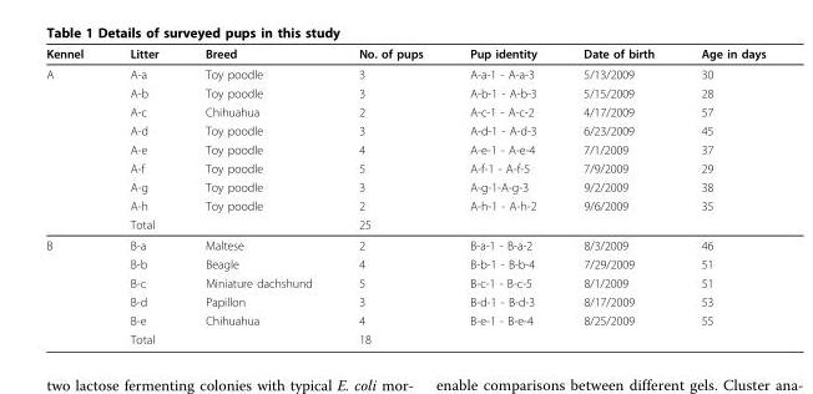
<table><thead><tr><td>Kennel</td><td>Litter</td><td>Breed</td><td>No. of pups</td><td>Pup identity</td><td>Date of birth</td><td>Age in days</td></tr></thead><tbody><tr><td rowspan="9">A</td><td>A-a</td><td>Toy poodle</td><td>3</td><td>A-a-1 - A-a-3</td><td>5/13/2009</td><td>30</td></tr><tr><td>A-b</td><td>Toy poodle</td><td>3</td><td>A-b-1 - A-b-3</td><td>5/15/2009</td><td>28</td></tr><tr><td>A-c</td><td>Chihuahua</td><td>2</td><td>A-c-1 - A-c-2</td><td>4/17/2009</td><td>57</td></tr><tr><td>A-d</td><td>Toy poodle</td><td>3</td><td>A-d-1 - A-d-3</td><td>6/23/2009</td><td>45</td></tr><tr><td>A-e</td><td>Toy poodle</td><td>4</td><td>A-e-1 - A-e-4</td><td>7/1/2009</td><td>37</td></tr><tr><td>A-f</td><td>Toy poodle</td><td>5</td><td>A-f-1 - A-f-5</td><td>7/9/2009</td><td>29</td></tr><tr><td>A-g</td><td>Toy poodle</td><td>3</td><td>A-g-1-A-g-3</td><td>9/2/2009</td><td>38</td></tr><tr><td>A-h</td><td>Toy poodle</td><td>2</td><td>A-h-1 - A-h-2</td><td>9/6/2009</td><td>35</td></tr><tr><td>Total</td><td></td><td>25</td><td></td><td></td><td></td></tr><tr><td rowspan="6">B</td><td>B-a</td><td>Maltese</td><td>2</td><td>B-a-1 - B-a-2</td><td>8/3/2009</td><td>46</td></tr><tr><td>B-b</td><td>Beagle</td><td>4</td><td>B-b-1 - B-b-4</td><td>7/29/2009</td><td>51</td></tr><tr><td>B-c</td><td>Miniature dachshund</td><td>5</td><td>B-c-1 - B-c-5</td><td>8/1/2009</td><td>51</td></tr><tr><td>B-d</td><td>Papillon</td><td>3</td><td>B-d-1 - B-d-3</td><td>8/17/2009</td><td>53</td></tr><tr><td>B-e</td><td>Chihuahua</td><td>4</td><td>B-e-1 - B-e-4</td><td>8/25/2009</td><td>55</td></tr><tr><td>Total</td><td></td><td>18</td><td></td><td></td><td></td></tr></tbody></table>